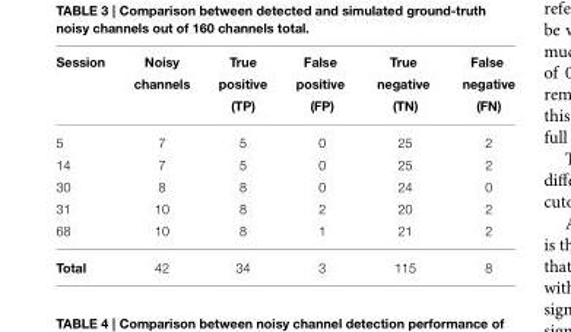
<table><thead><tr><td>Session</td><td>Noisy channels</td><td>True positive (TP)</td><td>False positive (FP)</td><td>True negative (TN)</td><td>False negative (FN)</td></tr></thead><tbody><tr><td>5</td><td>7</td><td>5</td><td>0</td><td>25</td><td>2</td></tr><tr><td>14</td><td>7</td><td>5</td><td>0</td><td>25</td><td>2</td></tr><tr><td>30</td><td>8</td><td>8</td><td>0</td><td>24</td><td>0</td></tr><tr><td>31</td><td>10</td><td>8</td><td>2</td><td>20</td><td>2</td></tr><tr><td>68</td><td>10</td><td>8</td><td>1</td><td>21</td><td>2</td></tr><tr><td>Total</td><td>42</td><td>34</td><td>3</td><td>115</td><td>8</td></tr></tbody></table>